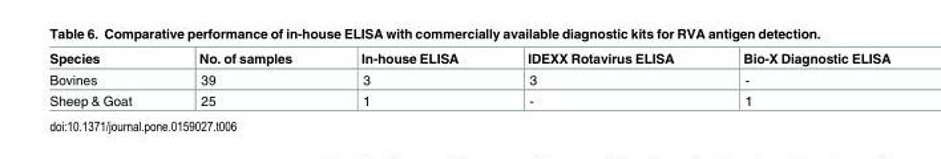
<table><thead><tr><td>Species</td><td>No. of samples</td><td>In-house ELISA</td><td>IDEXX Rotavirus ELISA</td><td>Bio-X Diagnostic ELISA</td></tr></thead><tbody><tr><td>Bovines</td><td>39</td><td>3</td><td>3</td><td>-</td></tr><tr><td>Sheep &amp; Goat</td><td>25</td><td>1</td><td>-</td><td>1</td></tr></tbody></table>